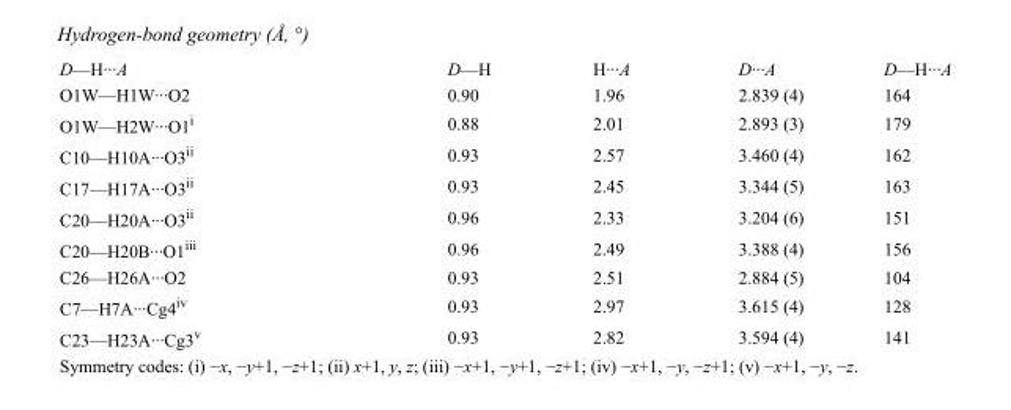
<table><tbody><tr><td>D—H···A</td><td>D—H</td><td>H···A</td><td>D···A</td><td>D—H···A</td></tr><tr><td>O1W—H1W···O2</td><td>0.90</td><td>1.96</td><td>2.839 (4)</td><td>164</td></tr><tr><td>O1W—H2W···O1<sup>i</sup></td><td>0.88</td><td>2.01</td><td>2.893 (3)</td><td>179</td></tr><tr><td>C10—H10A···O3<sup>ii</sup></td><td>0.93</td><td>2.57</td><td>3.460 (4)</td><td>162</td></tr><tr><td>C17—H17A···O3<sup>ii</sup></td><td>0.93</td><td>2.45</td><td>3.344 (5)</td><td>163</td></tr><tr><td>C20—H20A···O3<sup>ii</sup></td><td>0.96</td><td>2.33</td><td>3.204 (6)</td><td>151</td></tr><tr><td>C20—H20B···O1<sup>iii</sup></td><td>0.96</td><td>2.49</td><td>3.388 (4)</td><td>156</td></tr><tr><td>C26—H26A···O2</td><td>0.93</td><td>2.51</td><td>2.884 (5)</td><td>104</td></tr><tr><td>C7—H7A···Cg4<sup>iv</sup></td><td>0.93</td><td>2.97</td><td>3.615 (4)</td><td>128</td></tr><tr><td>C23—H23A···Cg3<sup>v</sup></td><td>0.93</td><td>2.82</td><td>3.594 (4)</td><td>141</td></tr></tbody></table>